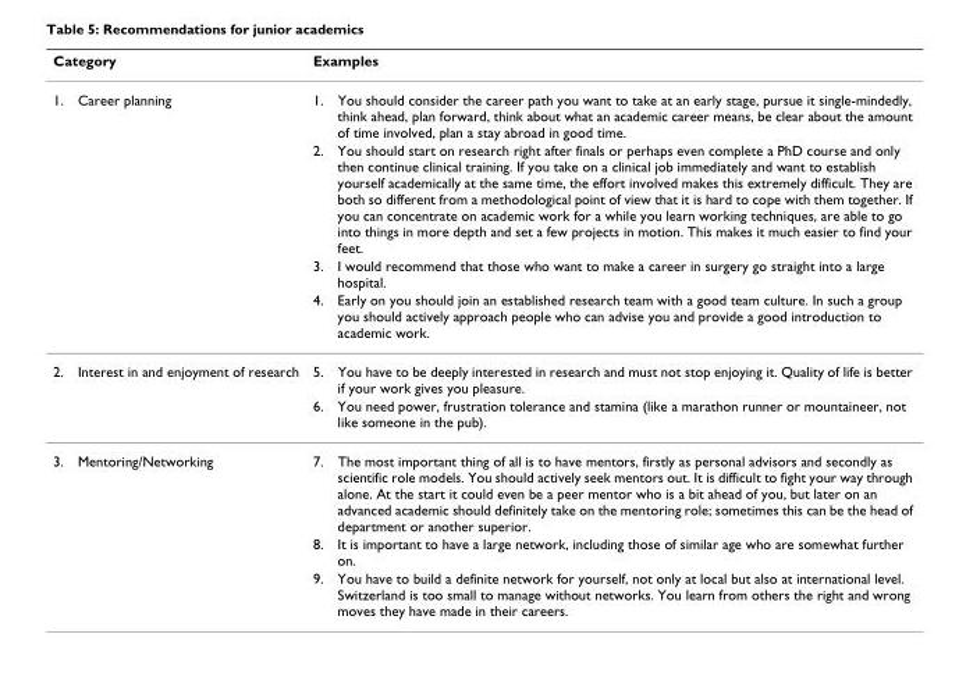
<table><thead><tr><td colspan="2">Category</td><td colspan="2">Examples</td></tr><tr><td>1.</td><td>Career planning</td><td>1.</td><td>You should consider the career path you want to take at an early stage, pursue it single-mindedly, think ahead, plan forward, think about what an academic career means, be clear about the amount of time involved, plan a stay abroad in good time.</td></tr></thead><tbody><tr><td></td><td></td><td>2.</td><td>You should start on research right after finals or perhaps even complete a PhD course and only then continue clinical training. If you take on a clinical job immediately and want to establish yourself academically at the same time, the effort involved makes this extremely difficult. They are both so different from a methodological point of view that it is hard to cope with them together. If you can concentrate on academic work for a while you learn working techniques, are able to go into things in more depth and set a few projects in motion. This makes it much easier to find your feet.</td></tr><tr><td></td><td></td><td>3.</td><td>I would recommend that those who want to make a career in surgery go straight into a large hospital.</td></tr><tr><td></td><td></td><td>4.</td><td>Early on you should join an established research team with a good team culture. In such a group you should actively approach people who can advise you and provide a good introduction to academic work.</td></tr><tr><td rowspan="2">2.</td><td>Interest in and enjoyment of research</td><td>5.</td><td>You have to be deeply interested in research and must not stop enjoying it. Quality of life is better if your work gives you pleasure.</td></tr><tr><td></td><td>6.</td><td>You need power, frustration tolerance and stamina (like a marathon runner or mountaineer, not like someone in the pub).</td></tr><tr><td rowspan="3">3.</td><td>Mentoring/Networking</td><td>7.</td><td>The most important thing of all is to have mentors, firstly as personal advisors and secondly as scientific role models. You should actively seek mentors out. It is difficult to fight your way through alone. At the start it could even be a peer mentor who is a bit ahead of you, but later on an advanced academic should definitely take on the mentoring role; sometimes this can be the head of department or another superior.</td></tr><tr><td></td><td>8.</td><td>It is important to have a large network, including those of similar age who are somewhat further on.</td></tr><tr><td></td><td>9.</td><td>You have to build a definite network for yourself, not only at local but also at international level. Switzerland is too small to manage without networks. You learn from others the right and wrong moves they have made in their careers.</td></tr></tbody></table>